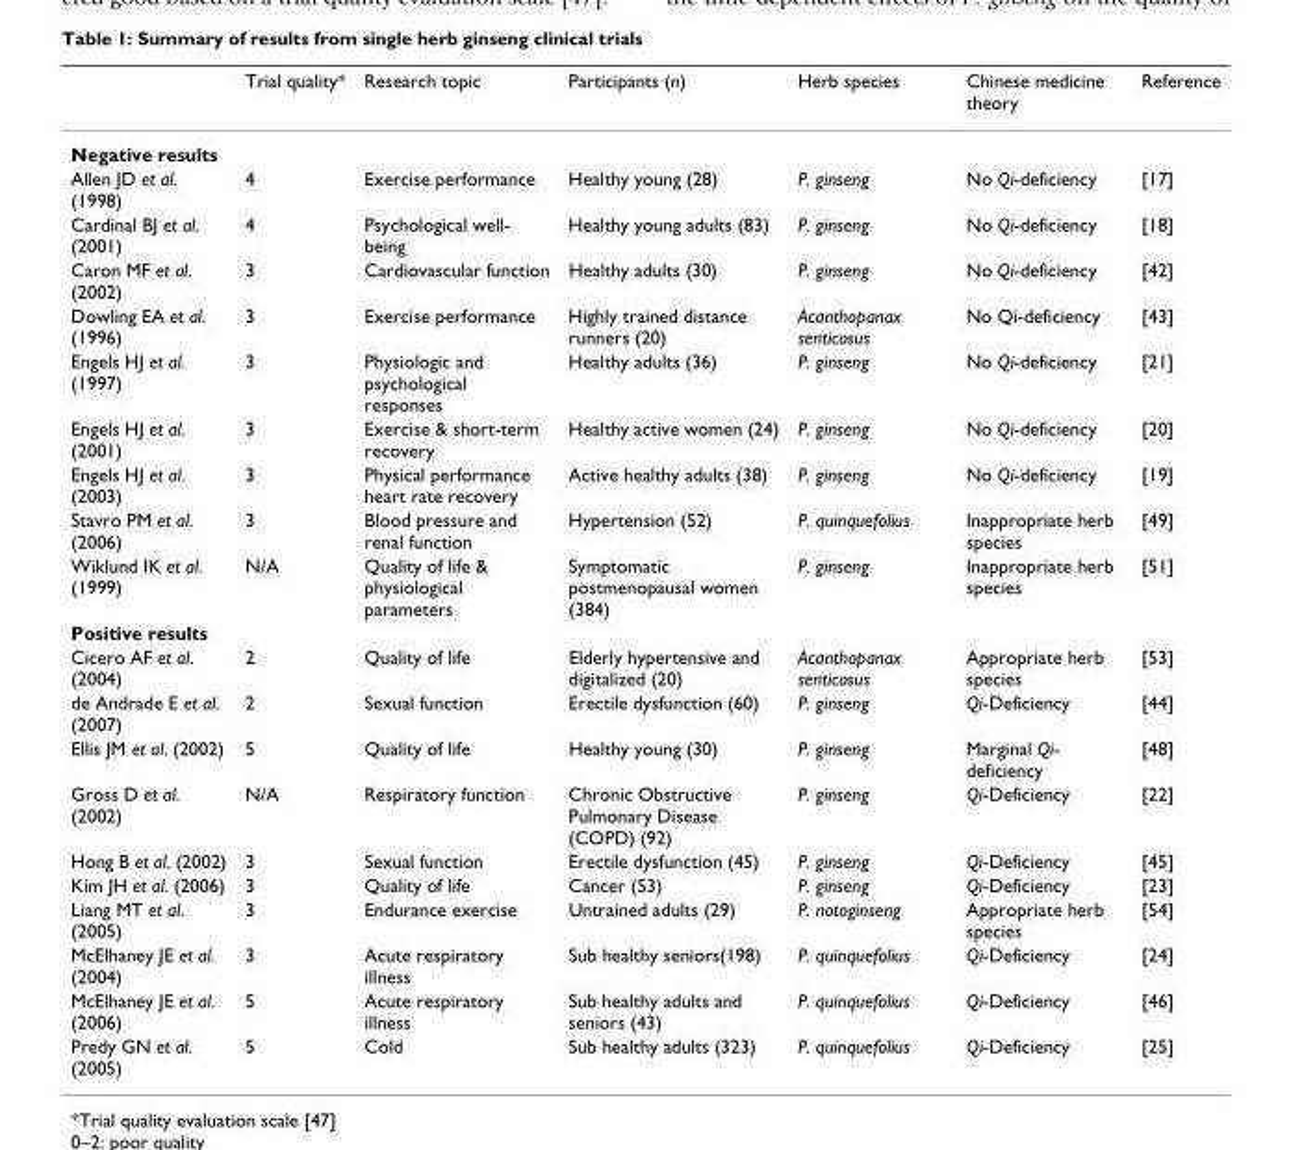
<table><thead><tr><td></td><td>Trial quality*</td><td>Research topic</td><td>Participants (n)</td><td>Herb species</td><td>Chinese medicine theory</td><td>Reference</td></tr></thead><tbody><tr><td colspan="7">Negative results</td></tr><tr><td>Allen JD et al. (1998)</td><td>4</td><td>Exercise performance</td><td>Healthy young (28)</td><td>P. ginseng</td><td>No Qi-deficiency</td><td>[17]</td></tr><tr><td>Cardinal BJ et al. (2001)</td><td>4</td><td>Psychological well- being</td><td>Healthy young adults (83)</td><td>P. ginseng</td><td>No Qi-deficiency</td><td>[18]</td></tr><tr><td>Caron MF et al. (2002)</td><td>3</td><td>Cardiovascular function</td><td>Healthy adults (30)</td><td>P. ginseng</td><td>No Qi-deficiency</td><td>[42]</td></tr><tr><td>Dowling EA et al. (1996)</td><td>3</td><td>Exercise performance</td><td>Highly trained distance runners (20)</td><td>Acanthopanax senticosus</td><td>No Qi-deficiency</td><td>[43]</td></tr><tr><td>Engels HJ et al. (1997)</td><td>3</td><td>Physiologic and psychological responses</td><td>Healthy adults (36)</td><td>P. ginseng</td><td>No Qi-deficiency</td><td>[21]</td></tr><tr><td>Engels HJ et al. (2001)</td><td>3</td><td>Exercise &amp; short-term recovery</td><td>Healthy active women (24)</td><td>P. ginseng</td><td>No Qi-deficiency</td><td>[20]</td></tr><tr><td>Engels HJ et al. (2003)</td><td>3</td><td>Physical performance heart rate recovery</td><td>Active healthy adults (38)</td><td>P. ginseng</td><td>No Qi-deficiency</td><td>[19]</td></tr><tr><td>Stavro PM et al. (2006)</td><td>3</td><td>Blood pressure and renal function</td><td>Hypertension (52)</td><td>P. quinquefolius</td><td>Inappropriate herb species</td><td>[49]</td></tr><tr><td>Wiklund IK et al. (1999)</td><td>N/A</td><td>Quality of life &amp; physiological parameters</td><td>Symptomatic postmenopausal women (384)</td><td>P. ginseng</td><td>Inappropriate herb species</td><td>[51]</td></tr><tr><td colspan="7">Positive results</td></tr><tr><td>Cicero AF et al. (2004)</td><td>2</td><td>Quality of life</td><td>Elderly hypertensive and digitalized (20)</td><td>Acanthopanax senticosus</td><td>Appropriate herb species</td><td>[53]</td></tr><tr><td>de Andrade E et al. (2007)</td><td>2</td><td>Sexual function</td><td>Erectile dysfunction (60)</td><td>P. ginseng</td><td>Qi-Deficiency</td><td>[44]</td></tr><tr><td>Ellis JM et al. (2002)</td><td>5</td><td>Quality of life</td><td>Healthy young (30)</td><td>P. ginseng</td><td>Marginal Qi- deficiency</td><td>[48]</td></tr><tr><td>Gross D et al. (2002)</td><td>N/A</td><td>Respiratory function</td><td>Chronic Obstructive Pulmonary Disease (COPD) (92)</td><td>P. ginseng</td><td>Qi-Deficiency</td><td>[22]</td></tr><tr><td>Hong B et al. (2002)</td><td>3</td><td>Sexual function</td><td>Erectile dysfunction (45)</td><td>P. ginseng</td><td>Qi-Deficiency</td><td>[45]</td></tr><tr><td>Kim JH et al. (2006)</td><td>3</td><td>Quality of life</td><td>Cancer (53)</td><td>P. ginseng</td><td>Qi-Deficiency</td><td>[23]</td></tr><tr><td>Liang MT et al. (2005)</td><td>3</td><td>Endurance exercise</td><td>Untrained adults (29)</td><td>P. notoginseng</td><td>Appropriate herb species</td><td>[54]</td></tr><tr><td>McElhaney JE et al. (2004)</td><td>3</td><td>Acute respiratory illness</td><td>Sub healthy seniors(198)</td><td>P. quinquefolius</td><td>Qi-Deficiency</td><td>[24]</td></tr><tr><td>McElhaney JE et al. (2006)</td><td>5</td><td>Acute respiratory illness</td><td>Sub healthy adults and seniors (43)</td><td>P. quinquefolius</td><td>Qi-Deficiency</td><td>[46]</td></tr><tr><td>Predy GN et al. (2005)</td><td>5</td><td>Cold</td><td>Sub healthy adults (323)</td><td>P. quinquefolius</td><td>Qi-Deficiency</td><td>[25]</td></tr></tbody></table>